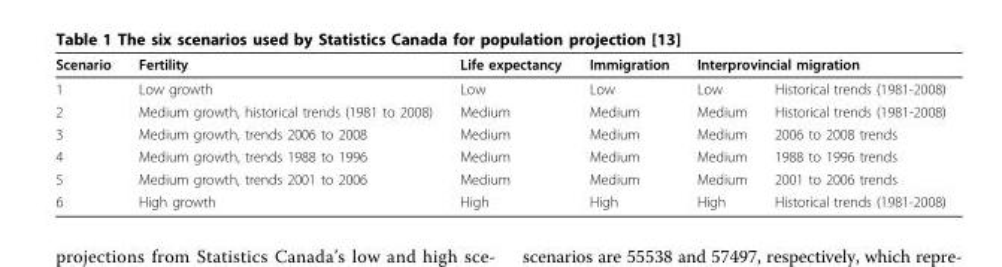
<table><thead><tr><td rowspan="2">Scenario 1</td><td rowspan="2">Fertility Low growth</td><td rowspan="2">Life expectancy Low</td><td rowspan="2">Immigration Low</td><td colspan="2">Interprovincial migration</td></tr><tr><td>Low</td><td>Historical trends (1981-2008)</td></tr></thead><tbody><tr><td>2</td><td>Medium growth, historical trends (1981 to 2008)</td><td>Medium</td><td>Medium</td><td>Medium</td><td>Historical trends (1981-2008)</td></tr><tr><td>3</td><td>Medium growth, trends 2006 to 2008</td><td>Medium</td><td>Medium</td><td>Medium</td><td>2006 to 2008 trends</td></tr><tr><td>4</td><td>Medium growth, trends 1988 to 1996</td><td>Medium</td><td>Medium</td><td>Medium</td><td>1988 to 1996 trends</td></tr><tr><td>5</td><td>Medium growth, trends 2001 to 2006</td><td>Medium</td><td>Medium</td><td>Medium</td><td>2001 to 2006 trends</td></tr><tr><td>6</td><td>High growth</td><td>High</td><td>High</td><td>High</td><td>Historical trends (1981-2008)</td></tr></tbody></table>